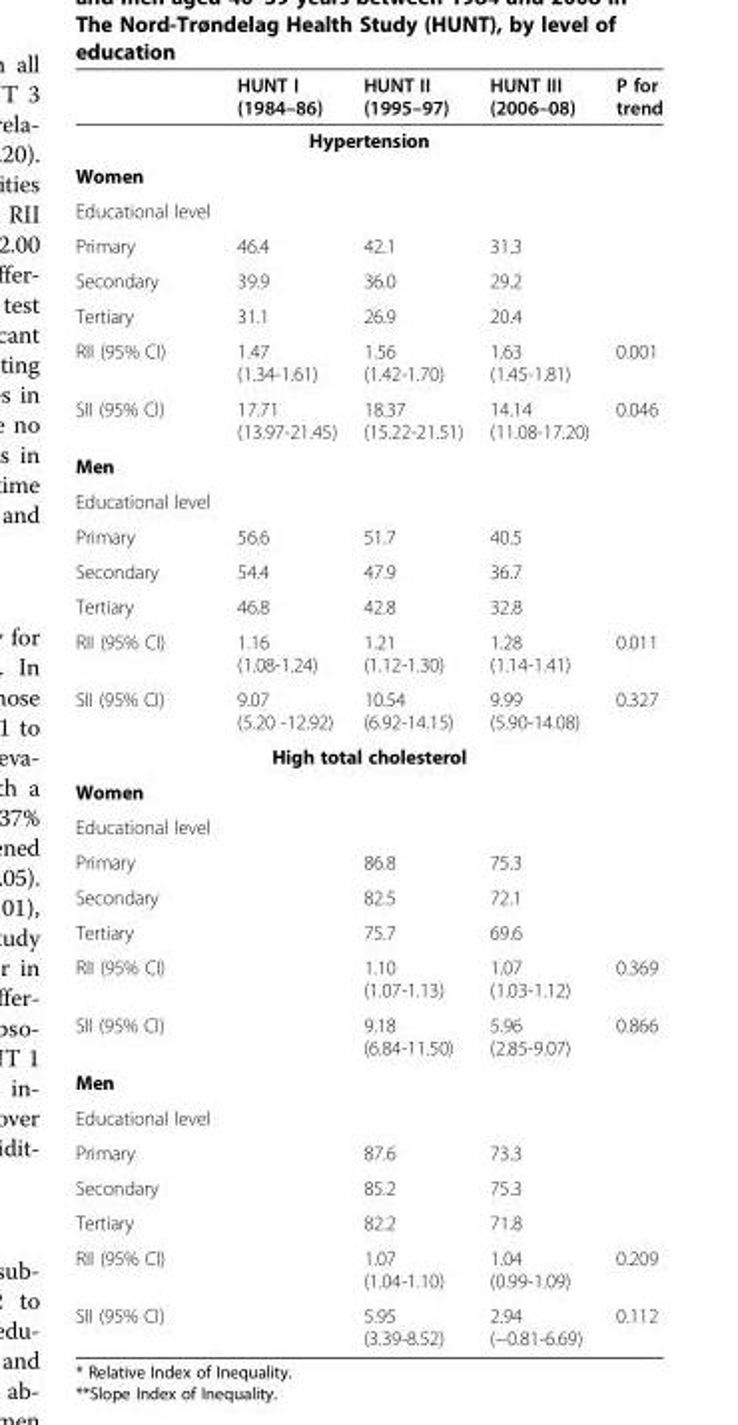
<table><thead><tr><td></td><td>HUNT I (1984–86)</td><td>HUNT II (1995–97)</td><td>HUNT III (2006–08)</td><td>P for trend</td></tr></thead><tbody><tr><td colspan="5">Hypertension</td></tr><tr><td colspan="5">Women</td></tr><tr><td colspan="5">Educational level</td></tr><tr><td>Primary</td><td>46.4</td><td>42.1</td><td>31.3</td><td></td></tr><tr><td>Secondary</td><td>39.9</td><td>36.0</td><td>29.2</td><td></td></tr><tr><td>Tertiary</td><td>31.1</td><td>26.9</td><td>20.4</td><td></td></tr><tr><td>RII (95% CI)</td><td>1.47 (1.34-1.61)</td><td>1.56 (1.42-1.70)</td><td>1.63 (1.45-1.81)</td><td>0.001</td></tr><tr><td>SII (95% CI)</td><td>17.71 (13.97-21.45)</td><td>18.37 (15.22-21.51)</td><td>14.14 (11.08-17.20)</td><td>0.046</td></tr><tr><td colspan="5">Men</td></tr><tr><td colspan="5">Educational level</td></tr><tr><td>Primary</td><td>56.6</td><td>51.7</td><td>40.5</td><td></td></tr><tr><td>Secondary</td><td>54.4</td><td>47.9</td><td>36.7</td><td></td></tr><tr><td>Tertiary</td><td>46.8</td><td>42.8</td><td>32.8</td><td></td></tr><tr><td>RII (95% CI)</td><td>1.16 (1.08-1.24)</td><td>1.21 (1.12-1.30)</td><td>1.28 (1.14-1.41)</td><td>0.011</td></tr><tr><td>SII (95% CI)</td><td>9.07 (5.20 -12.92)</td><td>10.54 (6.92-14.15)</td><td>9.99 (5.90-14.08)</td><td>0.327</td></tr><tr><td colspan="5">High total cholesterol</td></tr><tr><td colspan="5">Women</td></tr><tr><td colspan="5">Educational level</td></tr><tr><td>Primary</td><td></td><td>86.8</td><td>75.3</td><td></td></tr><tr><td>Secondary</td><td></td><td>82.5</td><td>72.1</td><td></td></tr><tr><td>Tertiary</td><td></td><td>75.7</td><td>69.6</td><td></td></tr><tr><td>RII (95% CI)</td><td></td><td>1.10 (1.07-1.13)</td><td>1.07 (1.03-1.12)</td><td>0.369</td></tr><tr><td>SII (95% CI)</td><td></td><td>9.18 (6.84-11.50)</td><td>5.96 (2.85-9.07)</td><td>0.866</td></tr><tr><td colspan="5">Men</td></tr><tr><td colspan="5">Educational level</td></tr><tr><td>Primary</td><td></td><td>87.6</td><td>73.3</td><td></td></tr><tr><td>Secondary</td><td></td><td>85.2</td><td>75.3</td><td></td></tr><tr><td>Tertiary</td><td></td><td>82.2</td><td>71.8</td><td></td></tr><tr><td>RII (95% CI)</td><td></td><td>1.07 (1.04-1.10)</td><td>1.04 (0.99-1.09)</td><td>0.209</td></tr><tr><td>SII (95% CI)</td><td></td><td>5.95 (3.39-8.52)</td><td>2.94 (−0.81-6.69)</td><td>0.112</td></tr></tbody></table>